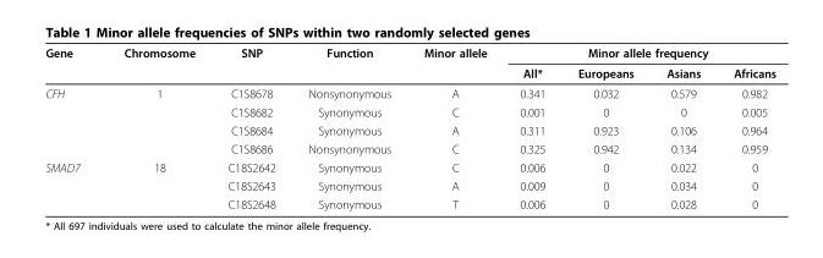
<table><thead><tr><td rowspan="2">Gene</td><td rowspan="2">Chromosome</td><td rowspan="2">SNP</td><td rowspan="2">Function</td><td rowspan="2">Minor allele</td><td colspan="4">Minor allele frequency</td></tr><tr><td>All*</td><td>Europeans</td><td>Asians</td><td>Africans</td></tr></thead><tbody><tr><td rowspan="4">CFH</td><td>1</td><td>C1S8678</td><td>Nonsynonymous</td><td>A</td><td>0.341</td><td>0.032</td><td>0.579</td><td>0.982</td></tr><tr><td></td><td>C1S8682</td><td>Synonymous</td><td>C</td><td>0.001</td><td>0</td><td>0</td><td>0.005</td></tr><tr><td></td><td>C1S8684</td><td>Synonymous</td><td>A</td><td>0.311</td><td>0.923</td><td>0.106</td><td>0.964</td></tr><tr><td></td><td>C1S8686</td><td>Nonsynonymous</td><td>C</td><td>0.325</td><td>0.942</td><td>0.134</td><td>0.959</td></tr><tr><td rowspan="3">SMAD7</td><td>18</td><td>C18S2642</td><td>Synonymous</td><td>C</td><td>0.006</td><td>0</td><td>0.022</td><td>0</td></tr><tr><td></td><td>C18S2643</td><td>Synonymous</td><td>A</td><td>0.009</td><td>0</td><td>0.034</td><td>0</td></tr><tr><td></td><td>C18S2648</td><td>Synonymous</td><td>T</td><td>0.006</td><td>0</td><td>0.028</td><td>0</td></tr></tbody></table>